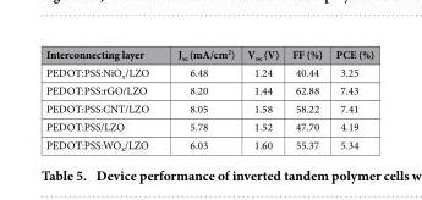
<table><thead><tr><td>Interconnecting layer</td><td>J<sub>sc</sub> (mA/cm<sup>2</sup>)</td><td>V<sub>oc</sub> (V)</td><td>FF (%)</td><td>PCE (%)</td></tr></thead><tbody><tr><td>PEDOT:PSS:NiO<sub>x</sub>/LZO</td><td>6.48</td><td>1.24</td><td>40.44</td><td>3.25</td></tr><tr><td>PEDOT:PSS:rGO/LZO</td><td>8.20</td><td>1.44</td><td>62.88</td><td>7.43</td></tr><tr><td>PEDOT:PSS:CNT/LZO</td><td>8.05</td><td>1.58</td><td>58.22</td><td>7.41</td></tr><tr><td>PEDOT:PSS/LZO</td><td>5.78</td><td>1.52</td><td>47.70</td><td>4.19</td></tr><tr><td>PEDOT:PSS:WO<sub>x</sub>/LZO</td><td>6.03</td><td>1.60</td><td>55.37</td><td>5.34</td></tr></tbody></table>